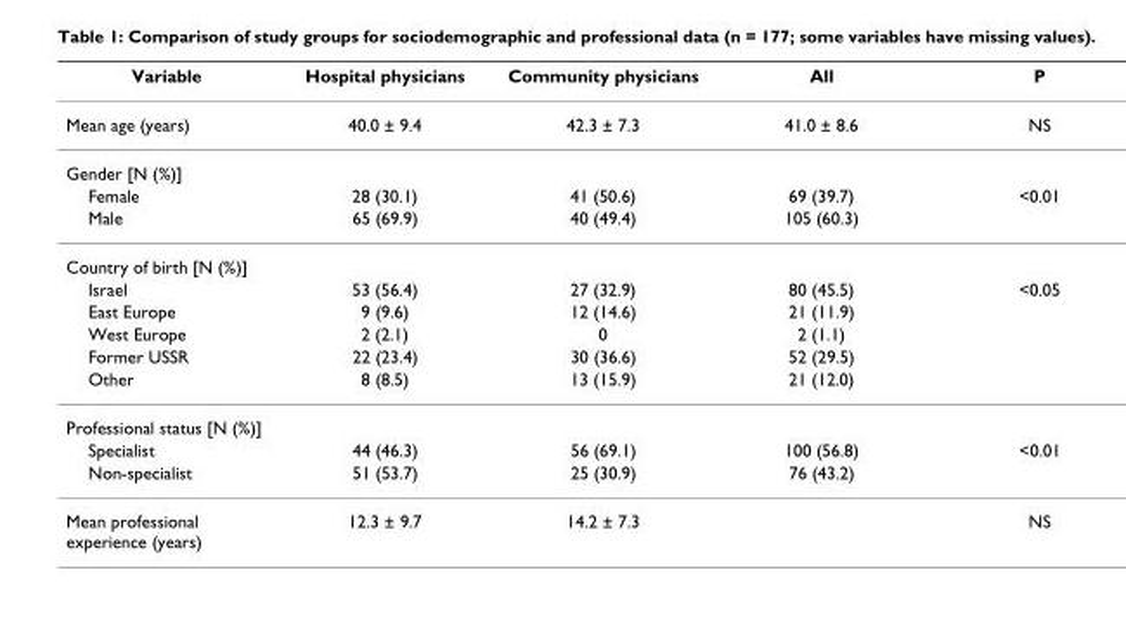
<table><thead><tr><td>Variable</td><td>Hospital physicians</td><td>Community physicians</td><td>All</td><td>P</td></tr></thead><tbody><tr><td>Mean age (years)</td><td>40.0 ± 9.4</td><td>42.3 ± 7.3</td><td>41.0 ± 8.6</td><td>NS</td></tr><tr><td colspan="5">Gender [N (%)]</td></tr><tr><td>Female</td><td>28 (30.1)</td><td>41 (50.6)</td><td>69 (39.7)</td><td>&lt;0.01</td></tr><tr><td>Male</td><td>65 (69.9)</td><td>40 (49.4)</td><td>105 (60.3)</td><td></td></tr><tr><td colspan="5">Country of birth [N (%)]</td></tr><tr><td>Israel</td><td>53 (56.4)</td><td>27 (32.9)</td><td>80 (45.5)</td><td>&lt;0.05</td></tr><tr><td>East Europe</td><td>9 (9.6)</td><td>12 (14.6)</td><td>21 (11.9)</td><td></td></tr><tr><td>West Europe</td><td>2 (2.1)</td><td>0</td><td>2 (1.1)</td><td></td></tr><tr><td>Former USSR</td><td>22 (23.4)</td><td>30 (36.6)</td><td>52 (29.5)</td><td></td></tr><tr><td>Other</td><td>8 (8.5)</td><td>13 (15.9)</td><td>21 (12.0)</td><td></td></tr><tr><td colspan="5">Professional status [N (%)]</td></tr><tr><td>Specialist</td><td>44 (46.3)</td><td>56 (69.1)</td><td>100 (56.8)</td><td>&lt;0.01</td></tr><tr><td>Non-specialist</td><td>51 (53.7)</td><td>25 (30.9)</td><td>76 (43.2)</td><td></td></tr><tr><td>Mean professional experience (years)</td><td>12.3 ± 9.7</td><td>14.2 ± 7.3</td><td></td><td>NS</td></tr></tbody></table>